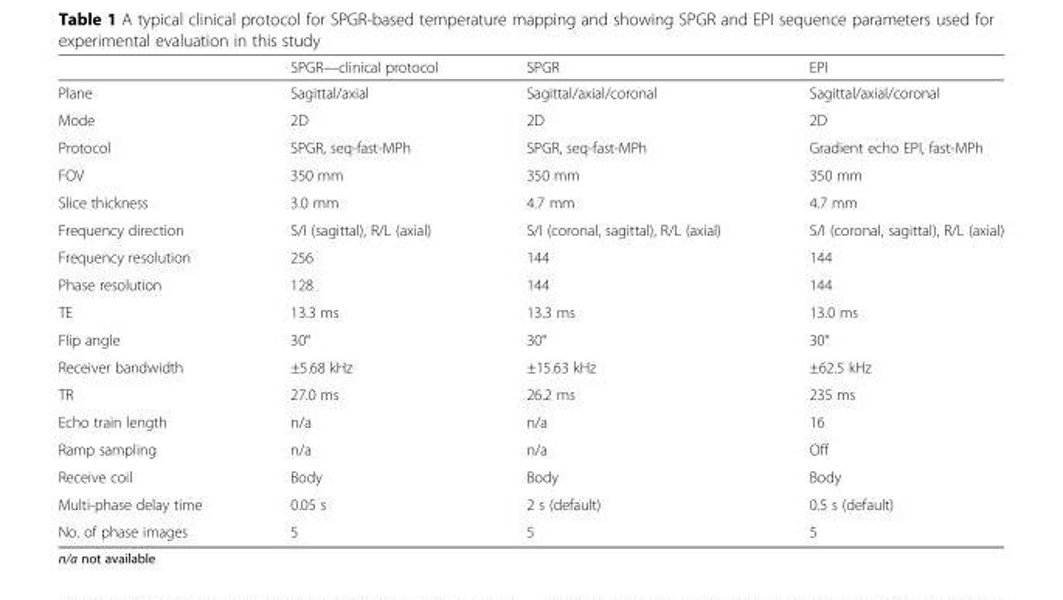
<table><thead><tr><td></td><td>SPGR—clinical protocol</td><td>SPGR</td><td>EPI</td></tr></thead><tbody><tr><td>Plane</td><td>Sagittal/axial</td><td>Sagittal/axial/coronal</td><td>Sagittal/axial/coronal</td></tr><tr><td>Mode</td><td>2D</td><td>2D</td><td>2D</td></tr><tr><td>Protocol</td><td>SPGR, seq-fast-MPh</td><td>SPGR, seq-fast-MPh</td><td>Gradient echo EPI, fast-MPh</td></tr><tr><td>FOV</td><td>350 mm</td><td>350 mm</td><td>350 mm</td></tr><tr><td>Slice thickness</td><td>3.0 mm</td><td>4.7 mm</td><td>4.7 mm</td></tr><tr><td>Frequency direction</td><td>S/I (sagittal), R/L (axial)</td><td>S/I (coronal, sagittal), R/L (axial)</td><td>S/I (coronal, sagittal), R/L (axial)</td></tr><tr><td>Frequency resolution</td><td>256</td><td>144</td><td>144</td></tr><tr><td>Phase resolution</td><td>128</td><td>144</td><td>144</td></tr><tr><td>TE</td><td>13.3 ms</td><td>13.3 ms</td><td>13.0 ms</td></tr><tr><td>Flip angle</td><td>30°</td><td>30°</td><td>30°</td></tr><tr><td>Receiver bandwidth</td><td>±5.68 kHz</td><td>±15.63 kHz</td><td>±62.5 kHz</td></tr><tr><td>TR</td><td>27.0 ms</td><td>26.2 ms</td><td>235 ms</td></tr><tr><td>Echo train length</td><td>n/a</td><td>n/a</td><td>16</td></tr><tr><td>Ramp sampling</td><td>n/a</td><td>n/a</td><td>Off</td></tr><tr><td>Receive coil</td><td>Body</td><td>Body</td><td>Body</td></tr><tr><td>Multi-phase delay time</td><td>0.05 s</td><td>2 s (default)</td><td>0.5 s (default)</td></tr><tr><td>No. of phase images</td><td>5</td><td>5</td><td>5</td></tr></tbody></table>